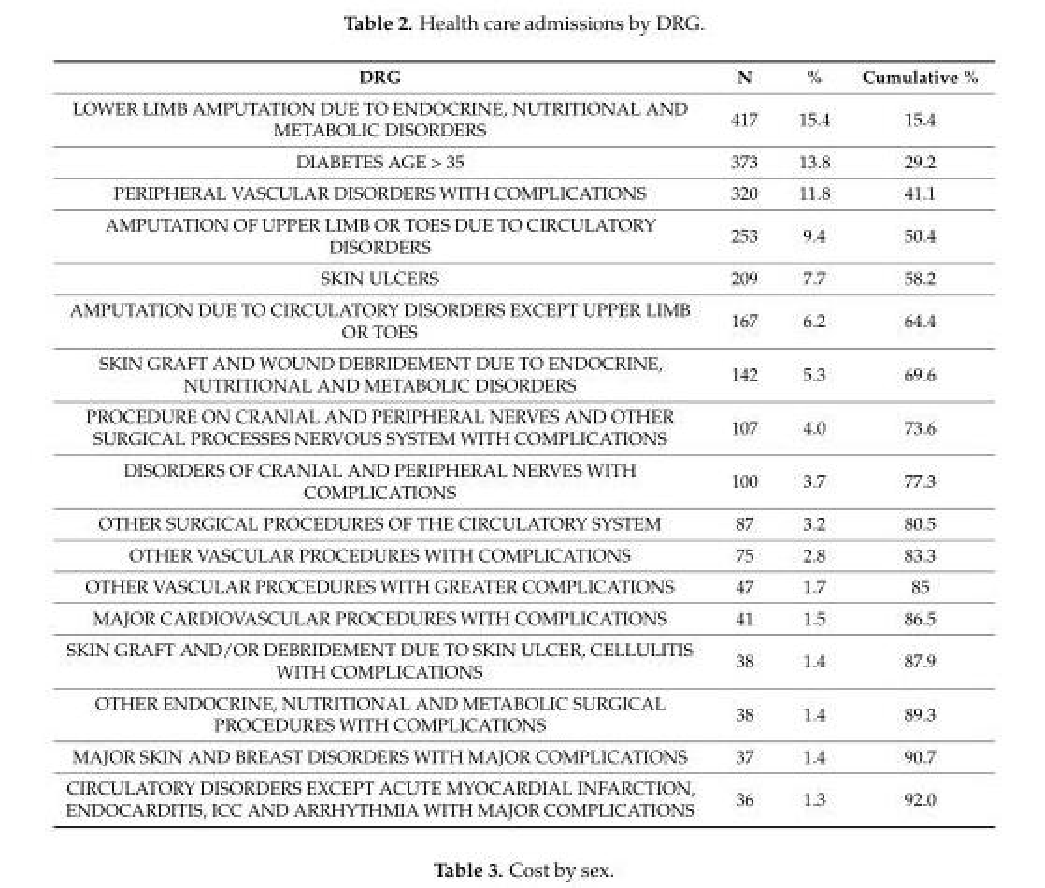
<table><thead><tr><td>DRG</td><td>N</td><td>%</td><td>Cumulative %</td></tr></thead><tbody><tr><td>LOWER LIMB AMPUTATION DUE TO ENDOCRINE, NUTRITIONAL AND METABOLIC DISORDERS</td><td>417</td><td>15.4</td><td>15.4</td></tr><tr><td>DIABETES AGE &gt; 35</td><td>373</td><td>13.8</td><td>29.2</td></tr><tr><td>PERIPHERAL VASCULAR DISORDERS WITH COMPLICATIONS</td><td>320</td><td>11.8</td><td>41.1</td></tr><tr><td>AMPUTATION OF UPPER LIMB OR TOES DUE TO CIRCULATORY DISORDERS</td><td>253</td><td>9.4</td><td>50.4</td></tr><tr><td>SKIN ULCERS</td><td>209</td><td>7.7</td><td>58.2</td></tr><tr><td>AMPUTATION DUE TO CIRCULATORY DISORDERS EXCEPT UPPER LIMB OR TOES</td><td>167</td><td>6.2</td><td>64.4</td></tr><tr><td>SKIN GRAFT AND WOUND DEBRIDEMENT DUE TO ENDOCRINE, NUTRITIONAL AND METABOLIC DISORDERS</td><td>142</td><td>5.3</td><td>69.6</td></tr><tr><td>PROCEDURE ON CRANIAL AND PERIPHERAL NERVES AND OTHER SURGICAL PROCESSES NERVOUS SYSTEM WITH COMPLICATIONS</td><td>107</td><td>4.0</td><td>73.6</td></tr><tr><td>DISORDERS OF CRANIAL AND PERIPHERAL NERVES WITH COMPLICATIONS</td><td>100</td><td>3.7</td><td>77.3</td></tr><tr><td>OTHER SURGICAL PROCEDURES OF THE CIRCULATORY SYSTEM</td><td>87</td><td>3.2</td><td>80.5</td></tr><tr><td>OTHER VASCULAR PROCEDURES WITH COMPLICATIONS</td><td>75</td><td>2.8</td><td>83.3</td></tr><tr><td>OTHER VASCULAR PROCEDURES WITH GREATER COMPLICATIONS</td><td>47</td><td>1.7</td><td>85</td></tr><tr><td>MAJOR CARDIOVASCULAR PROCEDURES WITH COMPLICATIONS</td><td>41</td><td>1.5</td><td>86.5</td></tr><tr><td>SKIN GRAFT AND/OR DEBRIDEMENT DUE TO SKIN ULCER, CELLULITIS WITH COMPLICATIONS</td><td>38</td><td>1.4</td><td>87.9</td></tr><tr><td>OTHER ENDOCRINE, NUTRITIONAL AND METABOLIC SURGICAL PROCEDURES WITH COMPLICATIONS</td><td>38</td><td>1.4</td><td>89.3</td></tr><tr><td>MAJOR SKIN AND BREAST DISORDERS WITH MAJOR COMPLICATIONS</td><td>37</td><td>1.4</td><td>90.7</td></tr><tr><td>CIRCULATORY DISORDERS EXCEPT ACUTE MYOCARDIAL INFARCTION, ENDOCARDITIS, ICC AND ARRHYTHMIA WITH MAJOR COMPLICATIONS</td><td>36</td><td>1.3</td><td>92.0</td></tr></tbody></table>